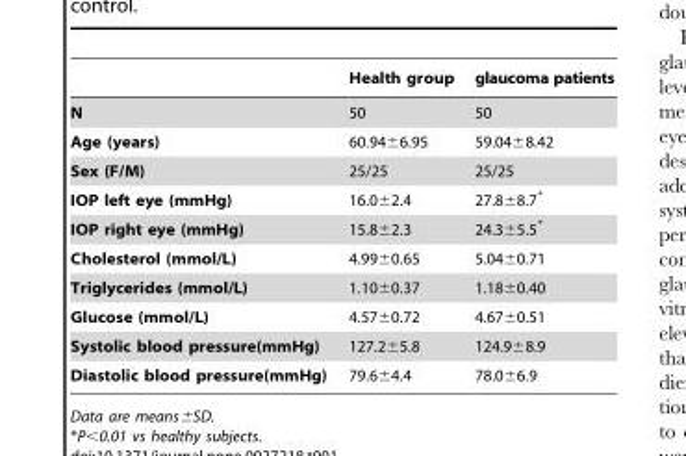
<table><thead><tr><td></td><td>Health group</td><td>glaucoma patients</td></tr></thead><tbody><tr><td>N</td><td>50</td><td>50</td></tr><tr><td>Age (years)</td><td>60.94±6.95</td><td>59.04±8.42</td></tr><tr><td>Sex (F/M)</td><td>25/25</td><td>25/25</td></tr><tr><td>IOP left eye (mmHg)</td><td>16.0±2.4</td><td>27.8±8.7*</td></tr><tr><td>IOP right eye (mmHg)</td><td>15.8±2.3</td><td>24.3±5.5*</td></tr><tr><td>Cholesterol (mmol/L)</td><td>4.99±0.65</td><td>5.04±0.71</td></tr><tr><td>Triglycerides (mmol/L)</td><td>1.10±0.37</td><td>1.18±0.40</td></tr><tr><td>Glucose (mmol/L)</td><td>4.57±0.72</td><td>4.67±0.51</td></tr><tr><td>Systolic blood pressure(mmHg)</td><td>127.2±5.8</td><td>124.9±8.9</td></tr><tr><td>Diastolic blood pressure(mmHg)</td><td>79.6±4.4</td><td>78.0±6.9</td></tr></tbody></table>